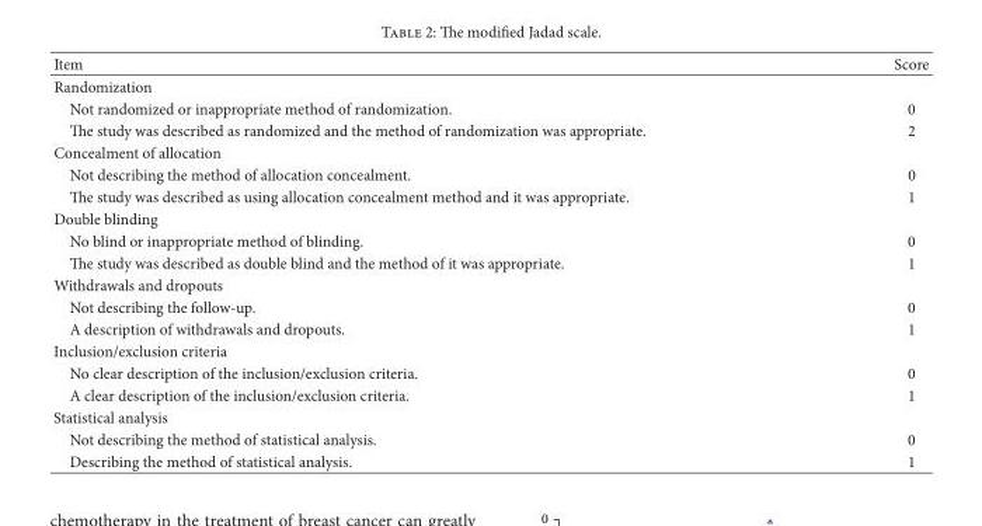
<table><thead><tr><td>Item</td><td>Score</td></tr></thead><tbody><tr><td colspan="2">Randomization</td></tr><tr><td>Not randomized or inappropriate method of randomization.</td><td>0</td></tr><tr><td>The study was described as randomized and the method of randomization was appropriate.</td><td>2</td></tr><tr><td colspan="2">Concealment of allocation</td></tr><tr><td>Not describing the method of allocation concealment.</td><td>0</td></tr><tr><td>The study was described as using allocation concealment method and it was appropriate.</td><td>1</td></tr><tr><td colspan="2">Double blinding</td></tr><tr><td>No blind or inappropriate method of blinding.</td><td>0</td></tr><tr><td>The study was described as double blind and the method of it was appropriate.</td><td>1</td></tr><tr><td colspan="2">Withdrawals and dropouts</td></tr><tr><td>Not describing the follow-up.</td><td>0</td></tr><tr><td>A description of withdrawals and dropouts.</td><td>1</td></tr><tr><td colspan="2">Inclusion/exclusion criteria</td></tr><tr><td>No clear description of the inclusion/exclusion criteria.</td><td>0</td></tr><tr><td>A clear description of the inclusion/exclusion criteria.</td><td>1</td></tr><tr><td colspan="2">Statistical analysis</td></tr><tr><td>Not describing the method of statistical analysis.</td><td>0</td></tr><tr><td>Describing the method of statistical analysis.</td><td>1</td></tr></tbody></table>